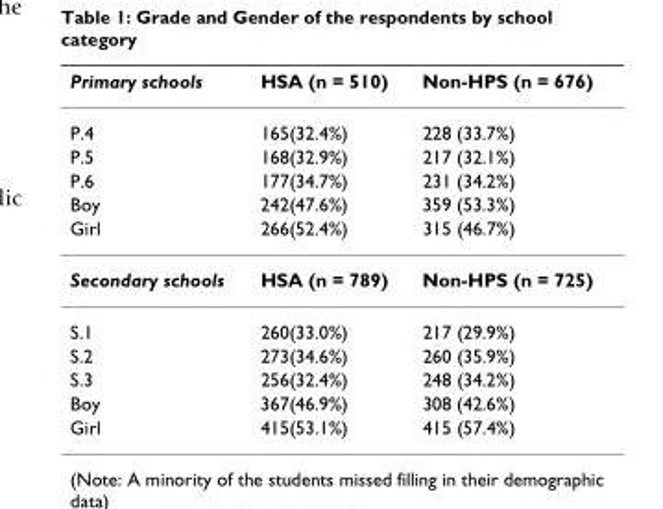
<table><thead><tr><td>Primary schools</td><td>HSA (n = 510)</td><td>Non-HPS (n = 676)</td></tr></thead><tbody><tr><td>P.4</td><td>165(32.4%)</td><td>228 (33.7%)</td></tr><tr><td>P.5</td><td>168(32.9%)</td><td>217 (32.1%)</td></tr><tr><td>P.6</td><td>177(34.7%)</td><td>231 (34.2%)</td></tr><tr><td>Boy</td><td>242(47.6%)</td><td>359 (53.3%)</td></tr><tr><td>Girl</td><td>266(52.4%)</td><td>315 (46.7%)</td></tr><tr><td>Secondary schools</td><td>HSA (n = 789)</td><td>Non-HPS (n = 725)</td></tr><tr><td>S.1</td><td>260(33.0%)</td><td>217 (29.9%)</td></tr><tr><td>S.2</td><td>273(34.6%)</td><td>260 (35.9%)</td></tr><tr><td>S.3</td><td>256(32.4%)</td><td>248 (34.2%)</td></tr><tr><td>Boy</td><td>367(46.9%)</td><td>308 (42.6%)</td></tr><tr><td>Girl</td><td>415(53.1%)</td><td>415 (57.4%)</td></tr></tbody></table>